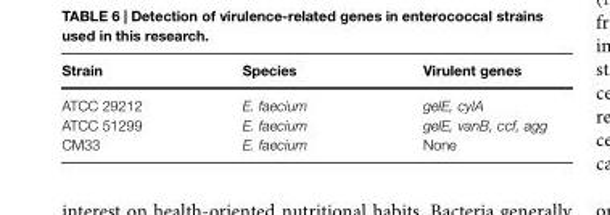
<table><thead><tr><td>Strain</td><td>Species</td><td>Virulent genes</td></tr></thead><tbody><tr><td>ATCC 29212 ATCC 51299 CM33</td><td>E. faecium E. faecium E. faecium</td><td>gelE, cylA gelE, vanB, ccf, agg None</td></tr></tbody></table>